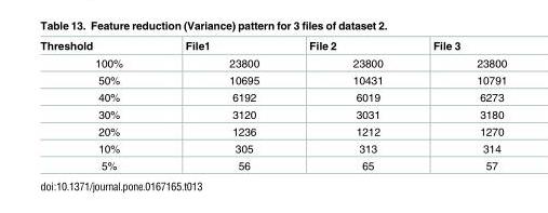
<table><thead><tr><td>Threshold</td><td>File1</td><td>File 2</td><td>File 3</td></tr></thead><tbody><tr><td>100%</td><td>23800</td><td>23800</td><td>23800</td></tr><tr><td>50%</td><td>10695</td><td>10431</td><td>10791</td></tr><tr><td>40%</td><td>6192</td><td>6019</td><td>6273</td></tr><tr><td>30%</td><td>3120</td><td>3031</td><td>3180</td></tr><tr><td>20%</td><td>1236</td><td>1212</td><td>1270</td></tr><tr><td>10%</td><td>305</td><td>313</td><td>314</td></tr><tr><td>5%</td><td>56</td><td>65</td><td>57</td></tr></tbody></table>